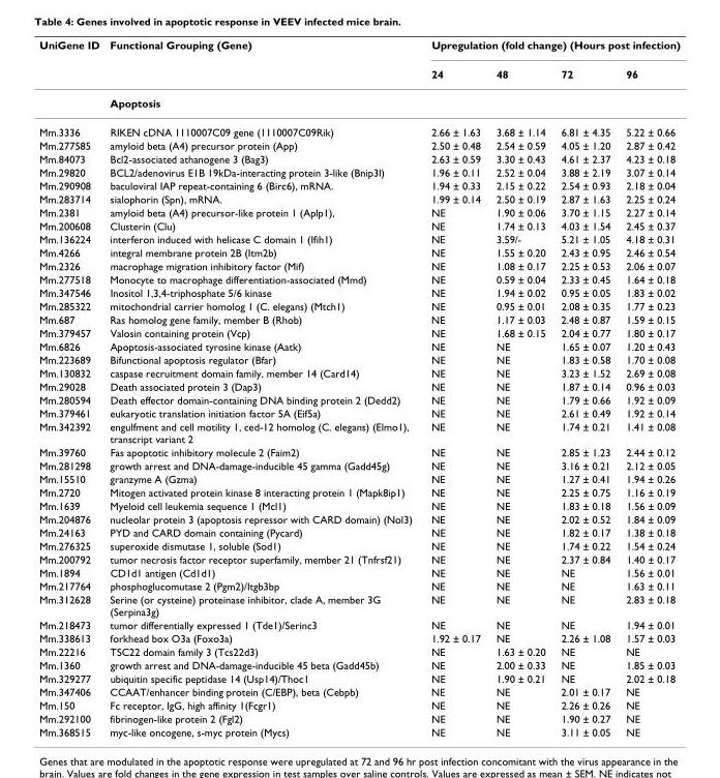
<table><thead><tr><td rowspan="2">UniGene ID</td><td rowspan="2">Functional Grouping (Gene)</td><td colspan="4">Upregulation (fold change) (Hours post infection)</td></tr><tr><td>24</td><td>48</td><td>72</td><td>96</td></tr></thead><tbody><tr><td></td><td>Apoptosis</td><td></td><td></td><td></td><td></td></tr><tr><td>Mm.3336</td><td>RIKEN cDNA 1110007C09 gene (1110007C09Rik)</td><td>2.66 ± 1.63</td><td>3.68 ± 1.14</td><td>6.81 ± 4.35</td><td>5.22 ± 0.66</td></tr><tr><td>Mm.277585</td><td>amyloid beta (A4) precursor protein (App)</td><td>2.50 ± 0.48</td><td>2.54 ± 0.59</td><td>4.05 ± 1.20</td><td>2.87 ± 0.42</td></tr><tr><td>Mm.84073</td><td>Bcl2-associated athanogene 3 (Bag3)</td><td>2.63 ± 0.59</td><td>3.30 ± 0.43</td><td>4.61 ± 2.37</td><td>4.23 ± 0.18</td></tr><tr><td>Mm.29820</td><td>BCL2/adenovirus E1B 19kDa-interacting protein 3-like (Bnip3l)</td><td>1.96 ± 0.11</td><td>2.52 ± 0.04</td><td>3.88 ± 2.19</td><td>3.07 ± 0.14</td></tr><tr><td>Mm.290908</td><td>baculoviral IAP repeat-containing 6 (Birc6), mRNA.</td><td>1.94 ± 0.33</td><td>2.15 ± 0.22</td><td>2.54 ± 0.93</td><td>2.18 ± 0.04</td></tr><tr><td>Mm.283714</td><td>sialophorin (Spn), mRNA.</td><td>1.99 ± 0.14</td><td>2.50 ± 0.19</td><td>2.87 ± 1.63</td><td>2.25 ± 0.24</td></tr><tr><td>Mm.2381</td><td>amyloid beta (A4) precursor-like protein 1 (Aplp1),</td><td>NE</td><td>1.90 ± 0.06</td><td>3.70 ± 1.15</td><td>2.27 ± 0.14</td></tr><tr><td>Mm.200608</td><td>Clusterin (Clu)</td><td>NE</td><td>1.74 ± 0.13</td><td>4.03 ± 1.54</td><td>2.45 ± 0.37</td></tr><tr><td>Mm.136224</td><td>interferon induced with helicase C domain 1 (Ifih1)</td><td>NE</td><td>3.59/-</td><td>5.21 ± 1.05</td><td>4.18 ± 0.31</td></tr><tr><td>Mm.4266</td><td>integral membrane protein 2B (Itm2b)</td><td>NE</td><td>1.55 ± 0.20</td><td>2.43 ± 0.95</td><td>2.46 ± 0.54</td></tr><tr><td>Mm.2326</td><td>macrophage migration inhibitory factor (Mif)</td><td>NE</td><td>1.08 ± 0.17</td><td>2.25 ± 0.53</td><td>2.06 ± 0.07</td></tr><tr><td>Mm.277518</td><td>Monocyte to macrophage differentiation-associated (Mmd)</td><td>NE</td><td>0.59 ± 0.04</td><td>2.33 ± 0.45</td><td>1.64 ± 0.18</td></tr><tr><td>Mm.347546</td><td>Inositol 1,3,4-triphosphate 5/6 kinase</td><td>NE</td><td>1.94 ± 0.02</td><td>0.95 ± 0.05</td><td>1.83 ± 0.02</td></tr><tr><td>Mm.285322</td><td>mitochondrial carrier homolog 1 (C. elegans) (Mtch1)</td><td>NE</td><td>0.95 ± 0.01</td><td>2.08 ± 0.35</td><td>1.77 ± 0.23</td></tr><tr><td>Mm.687</td><td>Ras homolog gene family, member B (Rhob)</td><td>NE</td><td>1.17 ± 0.03</td><td>2.48 ± 0.87</td><td>1.59 ± 0.15</td></tr><tr><td>Mm.379457</td><td>Valosin containing protein (Vcp)</td><td>NE</td><td>1.68 ± 0.15</td><td>2.04 ± 0.77</td><td>1.80 ± 0.17</td></tr><tr><td>Mm.6826</td><td>Apoptosis-associated tyrosine kinase (Aatk)</td><td>NE</td><td>NE</td><td>1.65 ± 0.07</td><td>1.20 ± 0.43</td></tr><tr><td>Mm.223689</td><td>Bifunctional apoptosis regulator (Bfar)</td><td>NE</td><td>NE</td><td>1.83 ± 0.58</td><td>1.70 ± 0.08</td></tr><tr><td>Mm.130832</td><td>caspase recruitment domain family, member 14 (Card14)</td><td>NE</td><td>NE</td><td>3.23 ± 1.52</td><td>2.69 ± 0.08</td></tr><tr><td>Mm.29028</td><td>Death associated protein 3 (Dap3)</td><td>NE</td><td>NE</td><td>1.87 ± 0.14</td><td>0.96 ± 0.03</td></tr><tr><td>Mm.280594</td><td>Death effector domain-containing DNA binding protein 2 (Dedd2)</td><td>NE</td><td>NE</td><td>1.79 ± 0.66</td><td>1.92 ± 0.09</td></tr><tr><td>Mm.379461</td><td>eukaryotic translation initiation factor 5A (Eif5a)</td><td>NE</td><td>NE</td><td>2.61 ± 0.49</td><td>1.92 ± 0.14</td></tr><tr><td>Mm.342392</td><td>engulfment and cell motility 1, ced-12 homolog (C. elegans) (Elmo1), transcript variant 2</td><td>NE</td><td>NE</td><td>1.74 ± 0.21</td><td>1.41 ± 0.08</td></tr><tr><td>Mm.39760</td><td>Fas apoptotic inhibitory molecule 2 (Faim2)</td><td>NE</td><td>NE</td><td>2.85 ± 1.23</td><td>2.44 ± 0.12</td></tr><tr><td>Mm.281298</td><td>growth arrest and DNA-damage-inducible 45 gamma (Gadd45g)</td><td>NE</td><td>NE</td><td>3.16 ± 0.21</td><td>2.12 ± 0.05</td></tr><tr><td>Mm.15510</td><td>granzyme A (Gzma)</td><td>NE</td><td>NE</td><td>1.27 ± 0.41</td><td>1.94 ± 0.26</td></tr><tr><td>Mm.2720</td><td>Mitogen activated protein kinase 8 interacting protein 1 (Mapk8ip1)</td><td>NE</td><td>NE</td><td>2.25 ± 0.75</td><td>1.16 ± 0.19</td></tr><tr><td>Mm.1639</td><td>Myeloid cell leukemia sequence 1 (Mcl1)</td><td>NE</td><td>NE</td><td>1.83 ± 0.18</td><td>1.56 ± 0.09</td></tr><tr><td>Mm.204876</td><td>nucleolar protein 3 (apoptosis repressor with CARD domain) (Nol3)</td><td>NE</td><td>NE</td><td>2.02 ± 0.52</td><td>1.84 ± 0.09</td></tr><tr><td>Mm.24163</td><td>PYD and CARD domain containing (Pycard)</td><td>NE</td><td>NE</td><td>1.82 ± 0.17</td><td>1.38 ± 0.18</td></tr><tr><td>Mm.276325</td><td>superoxide dismutase 1, soluble (Sod1)</td><td>NE</td><td>NE</td><td>1.74 ± 0.22</td><td>1.54 ± 0.24</td></tr><tr><td>Mm.200792</td><td>tumor necrosis factor receptor superfamily, member 21 (Tnfrsf21)</td><td>NE</td><td>NE</td><td>2.37 ± 0.84</td><td>1.40 ± 0.17</td></tr><tr><td>Mm.1894</td><td>CD1d1 antigen (Cd1d1)</td><td>NE</td><td>NE</td><td>NE</td><td>1.56 ± 0.01</td></tr><tr><td>Mm.217764</td><td>phosphoglucomutase 2 (Pgm2)/Itgb3bp</td><td>NE</td><td>NE</td><td>NE</td><td>1.63 ± 0.11</td></tr><tr><td>Mm.312628</td><td>Serine (or cysteine) proteinase inhibitor, clade A, member 3G (Serpina3g)</td><td>NE</td><td>NE</td><td>NE</td><td>2.83 ± 0.18</td></tr><tr><td>Mm.218473</td><td>tumor differentially expressed 1 (Tde1)/Serinc3</td><td>NE</td><td>NE</td><td>NE</td><td>1.94 ± 0.01</td></tr><tr><td>Mm.338613</td><td>forkhead box O3a (Foxo3a)</td><td>1.92 ± 0.17</td><td>NE</td><td>2.26 ± 1.08</td><td>1.57 ± 0.03</td></tr><tr><td>Mm.22216</td><td>TSC22 domain family 3 (Tcs22d3)</td><td>NE</td><td>1.63 ± 0.20</td><td>NE</td><td>NE</td></tr><tr><td>Mm.1360</td><td>growth arrest and DNA-damage-inducible 45 beta (Gadd45b)</td><td>NE</td><td>2.00 ± 0.33</td><td>NE</td><td>1.85 ± 0.03</td></tr><tr><td>Mm.329277</td><td>ubiquitin specific peptidase 14 (Usp14)/Thoc1</td><td>NE</td><td>1.90 ± 0.21</td><td>NE</td><td>2.02 ± 0.18</td></tr><tr><td>Mm.347406</td><td>CCAAT/enhancer binding protein (C/EBP), beta (Cebpb)</td><td>NE</td><td>NE</td><td>2.01 ± 0.17</td><td>NE</td></tr><tr><td>Mm.150</td><td>Fc receptor, IgG, high affinity 1(Fcgr1)</td><td>NE</td><td>NE</td><td>2.26 ± 0.26</td><td>NE</td></tr><tr><td>Mm.292100</td><td>fibrinogen-like protein 2 (Fgl2)</td><td>NE</td><td>NE</td><td>1.90 ± 0.27</td><td>NE</td></tr><tr><td>Mm.368515</td><td>myc-like oncogene, s-myc protein (Mycs)</td><td>NE</td><td>NE</td><td>3.11 ± 0.05</td><td>NE</td></tr></tbody></table>